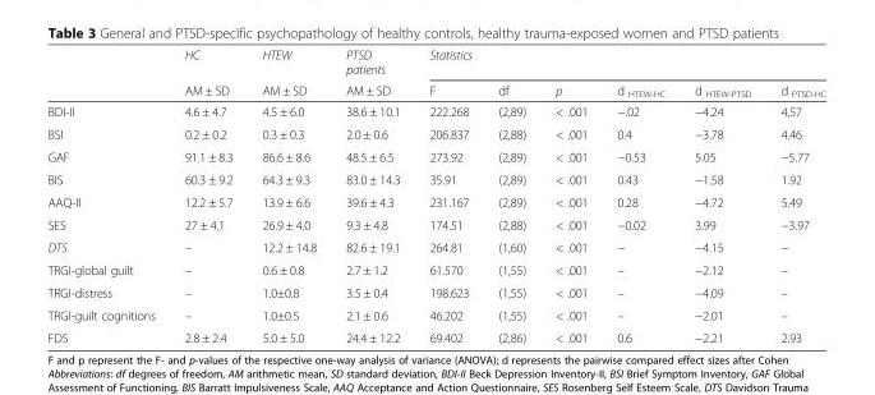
<table><thead><tr><td rowspan="2"></td><td rowspan="2">HC AM ± SD</td><td rowspan="2">HTEW AM ± SD</td><td rowspan="2">PTSD patients AM ± SD</td><td colspan="6">Statistics</td></tr><tr><td>F</td><td>df</td><td>p</td><td>d <sub>HTEW-HC</sub></td><td>d <sub>HTEW-PTSD</sub></td><td>d <sub>PTSD-HC</sub></td></tr></thead><tbody><tr><td>BDI-II</td><td>4.6 ± 4.7</td><td>4.5 ± 6.0</td><td>38.6 ± 10.1</td><td>222.268</td><td>(2,89)</td><td>&lt; .001</td><td>−.02</td><td>−4.24</td><td>4,57</td></tr><tr><td>BSI</td><td>0.2 ± 0.2</td><td>0.3 ± 0.3</td><td>2.0 ± 0.6</td><td>206.837</td><td>(2,88)</td><td>&lt; .001</td><td>0.4</td><td>−3.78</td><td>4.46</td></tr><tr><td>GAF</td><td>91.1 ± 8.3</td><td>86.6 ± 8.6</td><td>48.5 ± 6.5</td><td>273.92</td><td>(2,89)</td><td>&lt; .001</td><td>−0.53</td><td>5.05</td><td>−5.77</td></tr><tr><td>BIS</td><td>60.3 ± 9.2</td><td>64.3 ± 9.3</td><td>83.0 ± 14.3</td><td>35.91</td><td>(2,89)</td><td>&lt; .001</td><td>0.43</td><td>−1.58</td><td>1.92</td></tr><tr><td>AAQ-II</td><td>12.2 ± 5.7</td><td>13.9 ± 6.6</td><td>39.6 ± 4.3</td><td>231.167</td><td>(2,89)</td><td>&lt; .001</td><td>0.28</td><td>−4.72</td><td>5.49</td></tr><tr><td>SES</td><td>27 ± 4.1</td><td>26.9 ± 4.0</td><td>9.3 ± 4.8</td><td>174.51</td><td>(2,88)</td><td>&lt; .001</td><td>−0.02</td><td>3.99</td><td>−3.97</td></tr><tr><td>DTS</td><td>–</td><td>12.2 ± 14.8</td><td>82.6 ± 19.1</td><td>264.81</td><td>(1,60)</td><td>&lt; .001</td><td>−</td><td>−4.15</td><td>−</td></tr><tr><td>TRGI-global guilt</td><td>–</td><td>0.6 ± 0.8</td><td>2.7 ± 1.2</td><td>61.570</td><td>(1,55)</td><td>&lt; .001</td><td>–</td><td>−2.12</td><td>–</td></tr><tr><td>TRGI-distress</td><td>–</td><td>1.0±0.8</td><td>3.5 ± 0.4</td><td>198.623</td><td>(1,55)</td><td>&lt; .001</td><td>–</td><td>−4.09</td><td>–</td></tr><tr><td>TRGI-guilt cognitions</td><td>–</td><td>1.0±0.5</td><td>2.1 ± 0.6</td><td>46.202</td><td>(1,55)</td><td>&lt; .001</td><td>–</td><td>−2.01</td><td>–</td></tr><tr><td>FDS</td><td>2.8 ± 2.4</td><td>5.0 ± 5.0</td><td>24.4 ± 12.2</td><td>69.402</td><td>(2,86)</td><td>&lt; .001</td><td>0.6</td><td>−2.21</td><td>2.93</td></tr></tbody></table>